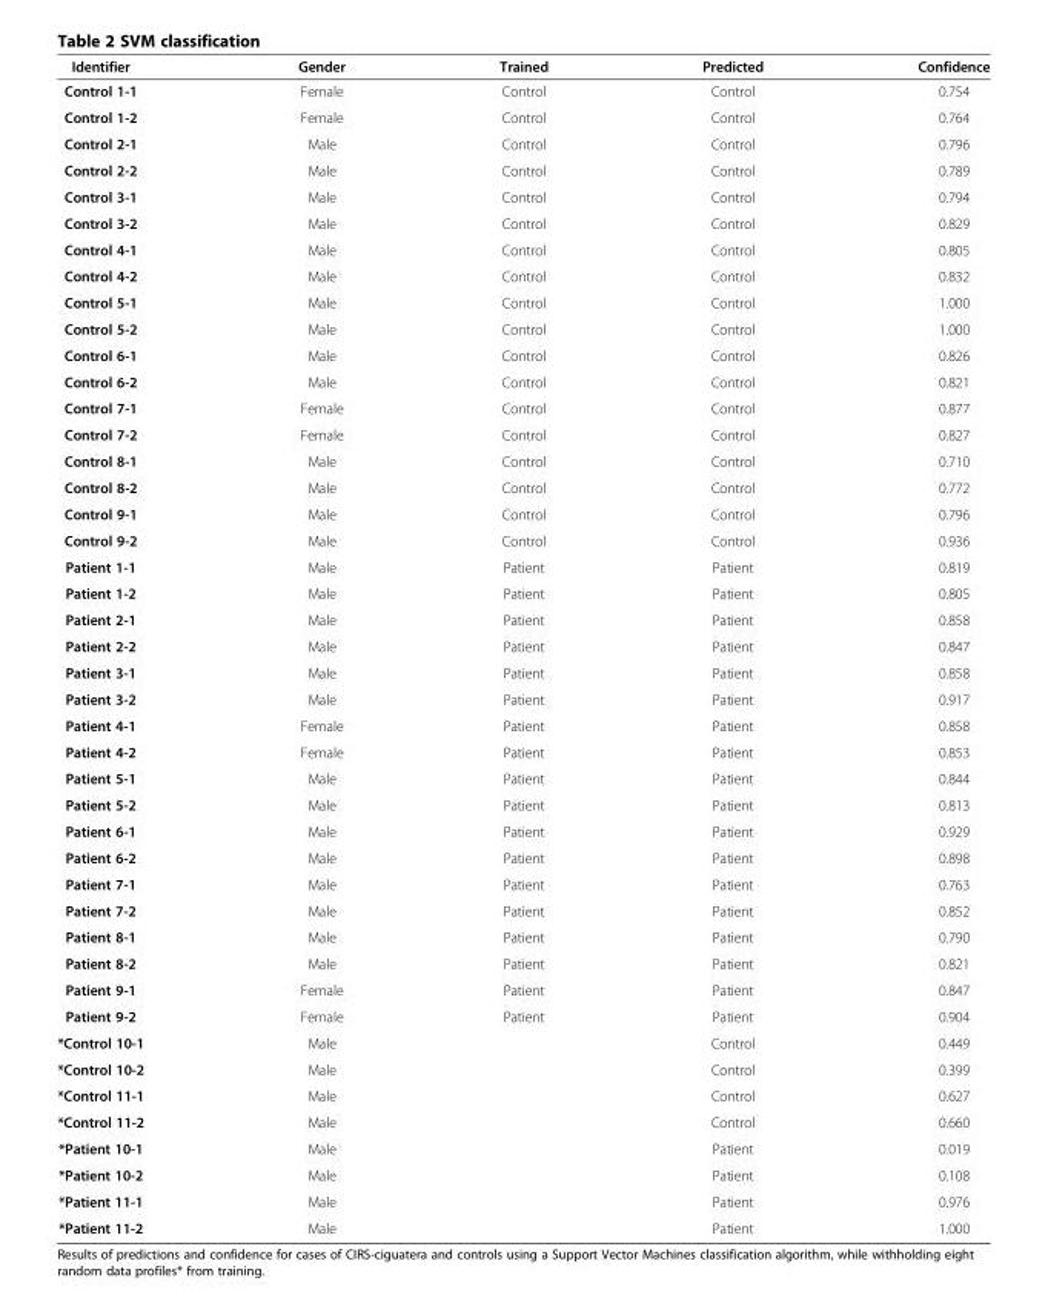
<table><thead><tr><td>Identifier</td><td>Gender</td><td>Trained</td><td>Predicted</td><td>Confidence</td></tr></thead><tbody><tr><td>Control 1-1</td><td>Female</td><td>Control</td><td>Control</td><td>0.754</td></tr><tr><td>Control 1-2</td><td>Female</td><td>Control</td><td>Control</td><td>0.764</td></tr><tr><td>Control 2-1</td><td>Male</td><td>Control</td><td>Control</td><td>0.796</td></tr><tr><td>Control 2-2</td><td>Male</td><td>Control</td><td>Control</td><td>0.789</td></tr><tr><td>Control 3-1</td><td>Male</td><td>Control</td><td>Control</td><td>0.794</td></tr><tr><td>Control 3-2</td><td>Male</td><td>Control</td><td>Control</td><td>0.829</td></tr><tr><td>Control 4-1</td><td>Male</td><td>Control</td><td>Control</td><td>0.805</td></tr><tr><td>Control 4-2</td><td>Male</td><td>Control</td><td>Control</td><td>0.832</td></tr><tr><td>Control 5-1</td><td>Male</td><td>Control</td><td>Control</td><td>1.000</td></tr><tr><td>Control 5-2</td><td>Male</td><td>Control</td><td>Control</td><td>1.000</td></tr><tr><td>Control 6-1</td><td>Male</td><td>Control</td><td>Control</td><td>0.826</td></tr><tr><td>Control 6-2</td><td>Male</td><td>Control</td><td>Control</td><td>0.821</td></tr><tr><td>Control 7-1</td><td>Female</td><td>Control</td><td>Control</td><td>0.877</td></tr><tr><td>Control 7-2</td><td>Female</td><td>Control</td><td>Control</td><td>0.827</td></tr><tr><td>Control 8-1</td><td>Male</td><td>Control</td><td>Control</td><td>0.710</td></tr><tr><td>Control 8-2</td><td>Male</td><td>Control</td><td>Control</td><td>0.772</td></tr><tr><td>Control 9-1</td><td>Male</td><td>Control</td><td>Control</td><td>0.796</td></tr><tr><td>Control 9-2</td><td>Male</td><td>Control</td><td>Control</td><td>0.936</td></tr><tr><td>Patient 1-1</td><td>Male</td><td>Patient</td><td>Patient</td><td>0.819</td></tr><tr><td>Patient 1-2</td><td>Male</td><td>Patient</td><td>Patient</td><td>0.805</td></tr><tr><td>Patient 2-1</td><td>Male</td><td>Patient</td><td>Patient</td><td>0.858</td></tr><tr><td>Patient 2-2</td><td>Male</td><td>Patient</td><td>Patient</td><td>0.847</td></tr><tr><td>Patient 3-1</td><td>Male</td><td>Patient</td><td>Patient</td><td>0.858</td></tr><tr><td>Patient 3-2</td><td>Male</td><td>Patient</td><td>Patient</td><td>0.917</td></tr><tr><td>Patient 4-1</td><td>Female</td><td>Patient</td><td>Patient</td><td>0.858</td></tr><tr><td>Patient 4-2</td><td>Female</td><td>Patient</td><td>Patient</td><td>0.853</td></tr><tr><td>Patient 5-1</td><td>Male</td><td>Patient</td><td>Patient</td><td>0.844</td></tr><tr><td>Patient 5-2</td><td>Male</td><td>Patient</td><td>Patient</td><td>0.813</td></tr><tr><td>Patient 6-1</td><td>Male</td><td>Patient</td><td>Patient</td><td>0.929</td></tr><tr><td>Patient 6-2</td><td>Male</td><td>Patient</td><td>Patient</td><td>0.898</td></tr><tr><td>Patient 7-1</td><td>Male</td><td>Patient</td><td>Patient</td><td>0.763</td></tr><tr><td>Patient 7-2</td><td>Male</td><td>Patient</td><td>Patient</td><td>0.852</td></tr><tr><td>Patient 8-1</td><td>Male</td><td>Patient</td><td>Patient</td><td>0.790</td></tr><tr><td>Patient 8-2</td><td>Male</td><td>Patient</td><td>Patient</td><td>0.821</td></tr><tr><td>Patient 9-1</td><td>Female</td><td>Patient</td><td>Patient</td><td>0.847</td></tr><tr><td>Patient 9-2</td><td>Female</td><td>Patient</td><td>Patient</td><td>0.904</td></tr><tr><td>*Control 10-1</td><td>Male</td><td></td><td>Control</td><td>0.449</td></tr><tr><td>*Control 10-2</td><td>Male</td><td></td><td>Control</td><td>0.399</td></tr><tr><td>*Control 11-1</td><td>Male</td><td></td><td>Control</td><td>0.627</td></tr><tr><td>*Control 11-2</td><td>Male</td><td></td><td>Control</td><td>0.660</td></tr><tr><td>*Patient 10-1</td><td>Male</td><td></td><td>Patient</td><td>0.019</td></tr><tr><td>*Patient 10-2</td><td>Male</td><td></td><td>Patient</td><td>0.108</td></tr><tr><td>*Patient 11-1</td><td>Male</td><td></td><td>Patient</td><td>0.976</td></tr><tr><td>*Patient 11-2</td><td>Male</td><td></td><td>Patient</td><td>1.000</td></tr></tbody></table>